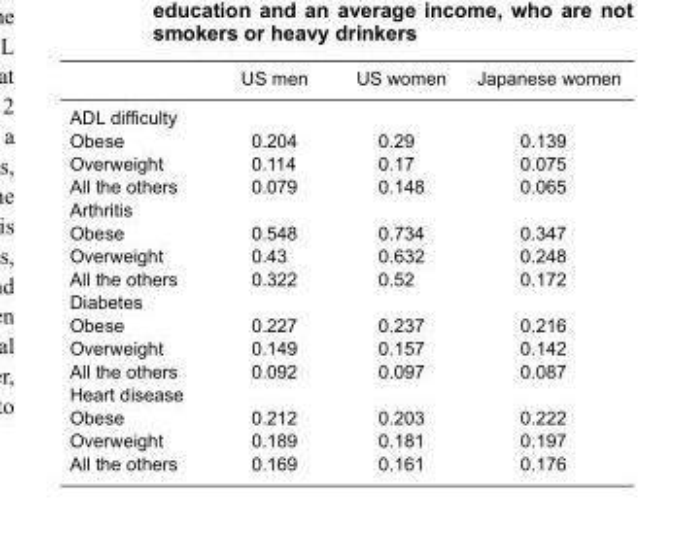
<table><thead><tr><td></td><td>US men</td><td>US women</td><td>Japanese women</td></tr></thead><tbody><tr><td colspan="4">ADL difficulty</td></tr><tr><td>Obese</td><td>0.204</td><td>0.29</td><td>0.139</td></tr><tr><td>Overweight</td><td>0.114</td><td>0.17</td><td>0.075</td></tr><tr><td>All the others</td><td>0.079</td><td>0.148</td><td>0.065</td></tr><tr><td colspan="4">Arthritis</td></tr><tr><td>Obese</td><td>0.548</td><td>0.734</td><td>0.347</td></tr><tr><td>Overweight</td><td>0.43</td><td>0.632</td><td>0.248</td></tr><tr><td>All the others</td><td>0.322</td><td>0.52</td><td>0.172</td></tr><tr><td colspan="4">Diabetes</td></tr><tr><td>Obese</td><td>0.227</td><td>0.237</td><td>0.216</td></tr><tr><td>Overweight</td><td>0.149</td><td>0.157</td><td>0.142</td></tr><tr><td>All the others</td><td>0.092</td><td>0.097</td><td>0.087</td></tr><tr><td colspan="4">Heart disease</td></tr><tr><td>Obese</td><td>0.212</td><td>0.203</td><td>0.222</td></tr><tr><td>Overweight</td><td>0.189</td><td>0.181</td><td>0.197</td></tr><tr><td>All the others</td><td>0.169</td><td>0.161</td><td>0.176</td></tr></tbody></table>